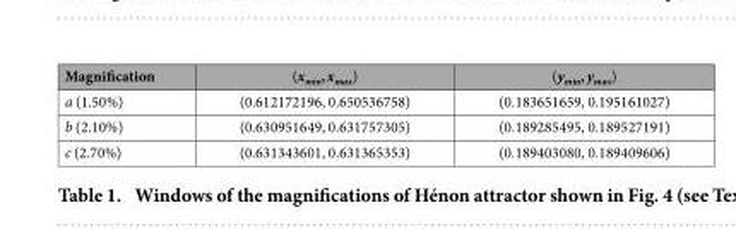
<table><thead><tr><td>Magnification</td><td>(x<sub>min</sub>, x<sub>max</sub>)</td><td>(y<sub>min</sub>, y<sub>max</sub>)</td></tr></thead><tbody><tr><td>a (1.50%)</td><td>(0.612172196, 0.650536758)</td><td>(0.183651659, 0.195161027)</td></tr><tr><td>b (2.10%)</td><td>(0.630951649, 0.631757305)</td><td>(0.189285495, 0.189527191)</td></tr><tr><td>c (2.70%)</td><td>(0.631343601, 0.631365353)</td><td>(0.189403080, 0.189409606)</td></tr></tbody></table>